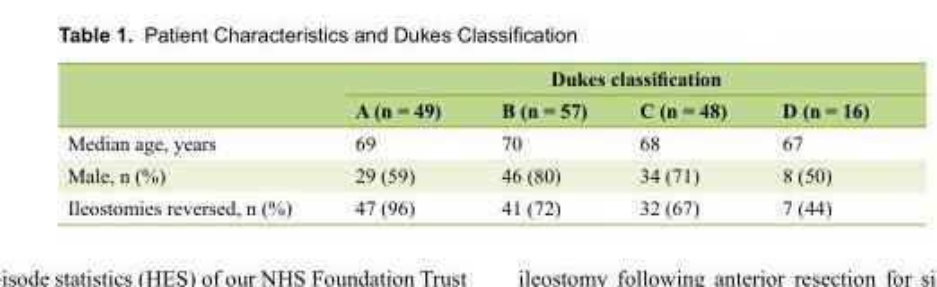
<table><thead><tr><td rowspan="2"></td><td colspan="4">Dukes classification</td></tr><tr><td>A (n = 49)</td><td>B (n = 57)</td><td>C (n = 48)</td><td>D (n = 16)</td></tr></thead><tbody><tr><td>Median age, years</td><td>69</td><td>70</td><td>68</td><td>67</td></tr><tr><td>Male, n (%)</td><td>29 (59)</td><td>46 (80)</td><td>34 (71)</td><td>8 (50)</td></tr><tr><td>Ileostomies reversed, n (%)</td><td>47 (96)</td><td>41 (72)</td><td>32 (67)</td><td>7 (44)</td></tr></tbody></table>